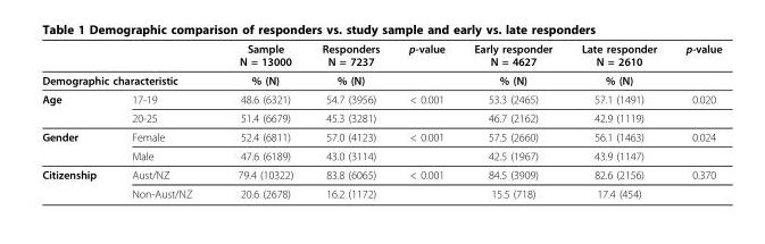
<table><thead><tr><td></td><td></td><td>Sample N = 13000</td><td>Responders N = 7237</td><td>p-value</td><td>Early responder N = 4627</td><td>Late responder N = 2610</td><td>p-value</td></tr></thead><tbody><tr><td colspan="2">Demographic characteristic</td><td>% (N)</td><td>% (N)</td><td></td><td>% (N)</td><td>% (N)</td><td></td></tr><tr><td rowspan="2">Age</td><td>17-19</td><td>48.6 (6321)</td><td>54.7 (3956)</td><td>&lt; 0.001</td><td>53.3 (2465)</td><td>57.1 (1491)</td><td>0.020</td></tr><tr><td>20-25</td><td>51.4 (6679)</td><td>45.3 (3281)</td><td></td><td>46.7 (2162)</td><td>42.9 (1119)</td><td></td></tr><tr><td rowspan="2">Gender</td><td>Female</td><td>52.4 (6811)</td><td>57.0 (4123)</td><td>&lt; 0.001</td><td>57.5 (2660)</td><td>56.1 (1463)</td><td>0.024</td></tr><tr><td>Male</td><td>47.6 (6189)</td><td>43.0 (3114)</td><td></td><td>42.5 (1967)</td><td>43.9 (1147)</td><td></td></tr><tr><td rowspan="2">Citizenship</td><td>Aust/NZ</td><td>79.4 (10322)</td><td>83.8 (6065)</td><td>&lt; 0.001</td><td>84.5 (3909)</td><td>82.6 (2156)</td><td>0.370</td></tr><tr><td>Non-Aust/NZ</td><td>20.6 (2678)</td><td>16.2 (1172)</td><td></td><td>15.5 (718)</td><td>17.4 (454)</td><td></td></tr></tbody></table>